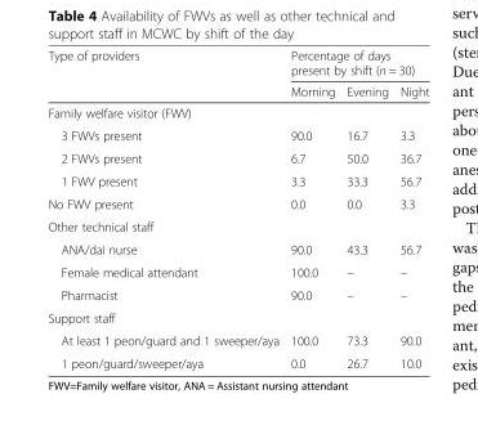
<table><thead><tr><td rowspan="2">Type of providers</td><td colspan="3">Percentage of days present by shift (n = 30)</td></tr><tr><td>Morning</td><td>Evening</td><td>Night</td></tr></thead><tbody><tr><td colspan="4">Family welfare visitor (FWV)</td></tr><tr><td>3 FWVs present</td><td>90.0</td><td>16.7</td><td>3.3</td></tr><tr><td>2 FWVs present</td><td>6.7</td><td>50.0</td><td>36.7</td></tr><tr><td>1 FWV present</td><td>3.3</td><td>33.3</td><td>56.7</td></tr><tr><td>No FWV present</td><td>0.0</td><td>0.0</td><td>3.3</td></tr><tr><td colspan="4">Other technical staff</td></tr><tr><td>ANA/dai nurse</td><td>90.0</td><td>43.3</td><td>56.7</td></tr><tr><td>Female medical attendant</td><td>100.0</td><td>–</td><td>–</td></tr><tr><td>Pharmacist</td><td>90.0</td><td>–</td><td>–</td></tr><tr><td colspan="4">Support staff</td></tr><tr><td>At least 1 peon/guard and 1 sweeper/aya</td><td>100.0</td><td>73.3</td><td>90.0</td></tr><tr><td>1 peon/guard/sweeper/aya</td><td>0.0</td><td>26.7</td><td>10.0</td></tr></tbody></table>